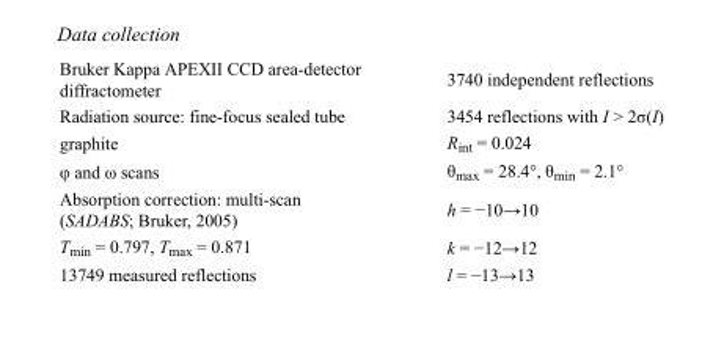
<table><tbody><tr><td>Bruker Kappa APEXII CCD area-detector diffractometer</td><td>3740 independent reflections</td></tr><tr><td>Radiation source: fine-focus sealed tube</td><td>3454 reflections with I &gt; 2σ(I)</td></tr><tr><td>graphite</td><td>R<sub>int</sub> = 0.024</td></tr><tr><td>φ and ω scans</td><td>θ<sub>max</sub> = 28.4°, θ<sub>min</sub> = 2.1°</td></tr><tr><td>Absorption correction: multi-scan (SADABS; Bruker, 2005)</td><td>h = −10→10</td></tr><tr><td>T<sub>min</sub> = 0.797, T<sub>max</sub> = 0.871</td><td>k = −12→12</td></tr><tr><td>13749 measured reflections</td><td>l = −13→13</td></tr></tbody></table>